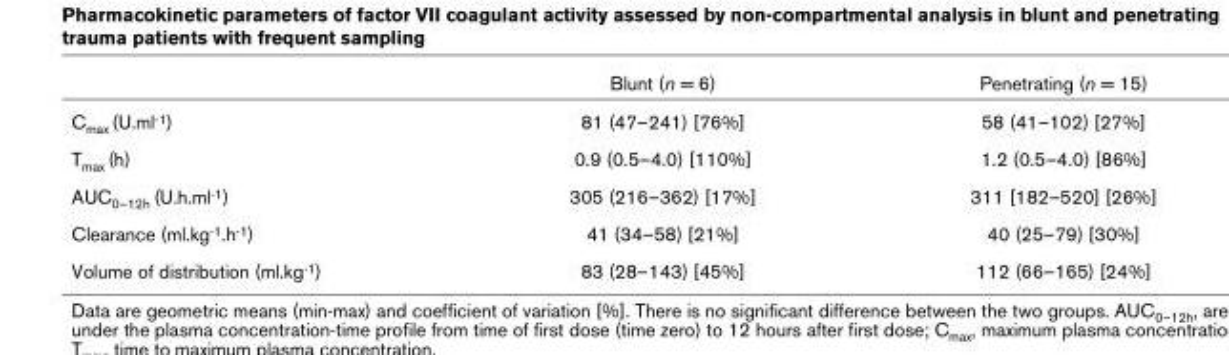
<table><thead><tr><td></td><td>Blunt (n = 6)</td><td>Penetrating (n = 15)</td></tr></thead><tbody><tr><td>Cmax (U.ml-1)</td><td>81 (47–241) [76%]</td><td>58 (41–102) [27%]</td></tr><tr><td>Tmax (h)</td><td>0.9 (0.5–4.0) [110%]</td><td>1.2 (0.5–4.0) [86%]</td></tr><tr><td>AUC0–12h (U.h.ml-1)</td><td>305 (216–362) [17%]</td><td>311 [182–520] [26%]</td></tr><tr><td>Clearance (ml.kg-1.h-1)</td><td>41 (34–58) [21%]</td><td>40 (25–79) [30%]</td></tr><tr><td>Volume of distribution (ml.kg-1)</td><td>83 (28–143) [45%]</td><td>112 (66–165) [24%]</td></tr></tbody></table>